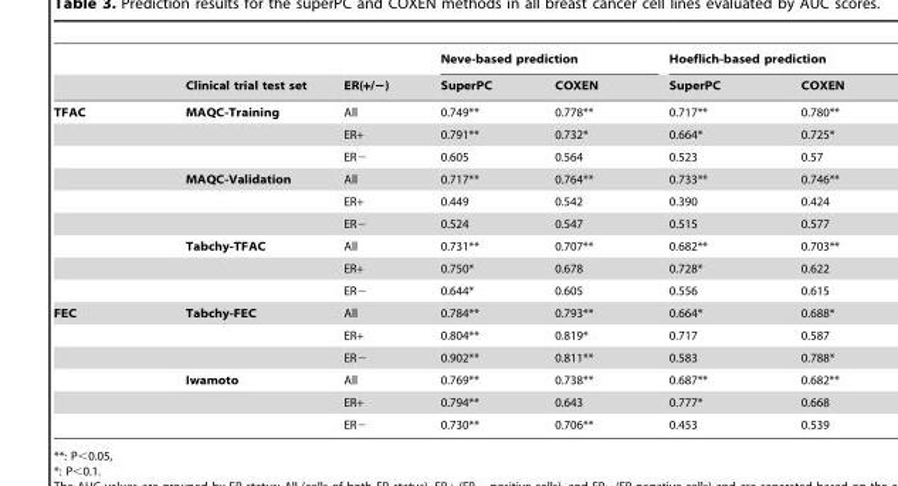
<table><thead><tr><td rowspan="2"></td><td rowspan="2">Clinical trial test set</td><td rowspan="2">ER(+/−)</td><td colspan="2">Neve-based prediction</td><td colspan="2">Hoeflich-based prediction</td></tr><tr><td>SuperPC</td><td>COXEN</td><td>SuperPC</td><td>COXEN</td></tr></thead><tbody><tr><td rowspan="9">TFAC</td><td>MAQC-Training</td><td>All</td><td>0.749**</td><td>0.778**</td><td>0.717**</td><td>0.780**</td></tr><tr><td></td><td>ER+</td><td>0.791**</td><td>0.732*</td><td>0.664*</td><td>0.725*</td></tr><tr><td></td><td>ER−</td><td>0.605</td><td>0.564</td><td>0.523</td><td>0.57</td></tr><tr><td>MAQC-Validation</td><td>All</td><td>0.717**</td><td>0.764**</td><td>0.733**</td><td>0.746**</td></tr><tr><td></td><td>ER+</td><td>0.449</td><td>0.542</td><td>0.390</td><td>0.424</td></tr><tr><td></td><td>ER−</td><td>0.524</td><td>0.547</td><td>0.515</td><td>0.577</td></tr><tr><td>Tabchy-TFAC</td><td>All</td><td>0.731**</td><td>0.707**</td><td>0.682**</td><td>0.703**</td></tr><tr><td></td><td>ER+</td><td>0.750*</td><td>0.678</td><td>0.728*</td><td>0.622</td></tr><tr><td></td><td>ER−</td><td>0.644*</td><td>0.605</td><td>0.556</td><td>0.615</td></tr><tr><td rowspan="6">FEC</td><td>Tabchy-FEC</td><td>All</td><td>0.784**</td><td>0.793**</td><td>0.664*</td><td>0.688*</td></tr><tr><td></td><td>ER+</td><td>0.804**</td><td>0.819*</td><td>0.717</td><td>0.587</td></tr><tr><td></td><td>ER−</td><td>0.902**</td><td>0.811**</td><td>0.583</td><td>0.788*</td></tr><tr><td>Iwamoto</td><td>All</td><td>0.769**</td><td>0.738**</td><td>0.687**</td><td>0.682**</td></tr><tr><td></td><td>ER+</td><td>0.794**</td><td>0.643</td><td>0.777*</td><td>0.668</td></tr><tr><td></td><td>ER−</td><td>0.730**</td><td>0.706**</td><td>0.453</td><td>0.539</td></tr></tbody></table>